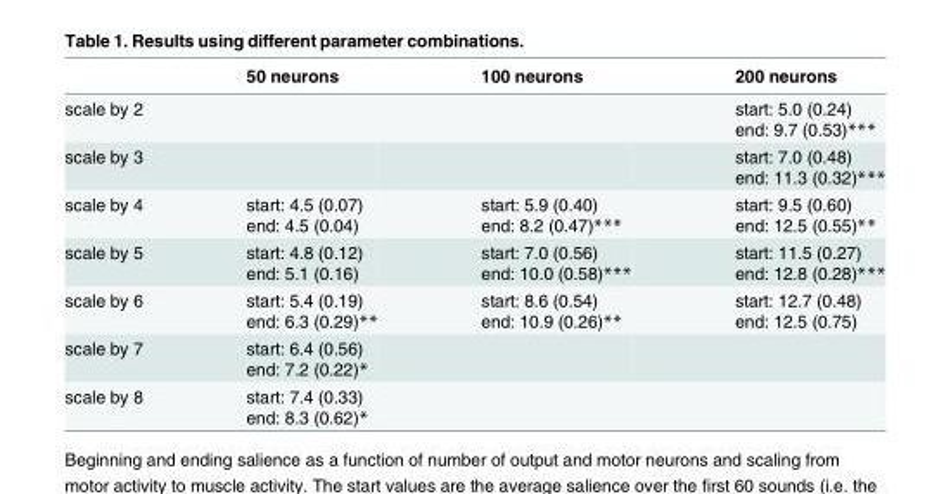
<table><thead><tr><td></td><td>50 neurons</td><td>100 neurons</td><td>200 neurons</td></tr></thead><tbody><tr><td>scale by 2</td><td></td><td></td><td>start: 5.0 (0.24) end: 9.7 (0.53)***</td></tr><tr><td>scale by 3</td><td></td><td></td><td>start: 7.0 (0.48) end: 11.3 (0.32)***</td></tr><tr><td>scale by 4</td><td>start: 4.5 (0.07) end: 4.5 (0.04)</td><td>start: 5.9 (0.40) end: 8.2 (0.47)***</td><td>start: 9.5 (0.60) end: 12.5 (0.55)**</td></tr><tr><td>scale by 5</td><td>start: 4.8 (0.12) end: 5.1 (0.16)</td><td>start: 7.0 (0.56) end: 10.0 (0.58)***</td><td>start: 11.5 (0.27) end: 12.8 (0.28)***</td></tr><tr><td>scale by 6</td><td>start: 5.4 (0.19) end: 6.3 (0.29)**</td><td>start: 8.6 (0.54) end: 10.9 (0.26)**</td><td>start: 12.7 (0.48) end: 12.5 (0.75)</td></tr><tr><td>scale by 7</td><td>start: 6.4 (0.56) end: 7.2 (0.22)*</td><td></td><td></td></tr><tr><td>scale by 8</td><td>start: 7.4 (0.33) end: 8.3 (0.62)*</td><td></td><td></td></tr></tbody></table>